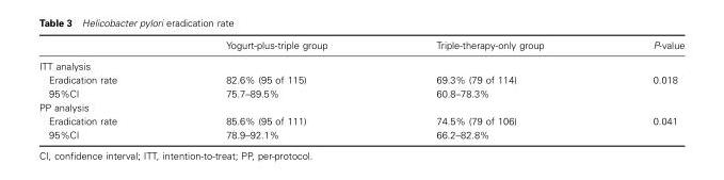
<table><thead><tr><td></td><td>Yogurt-plus-triple group</td><td>Triple-therapy-only group</td><td>P-value</td></tr></thead><tbody><tr><td colspan="4">ITT analysis</td></tr><tr><td>Eradication rate</td><td>82.6% (95 of 115)</td><td>69.3% (79 of 114)</td><td>0.018</td></tr><tr><td>95%CI</td><td>75.7–89.5%</td><td>60.8–78.3%</td><td></td></tr><tr><td colspan="4">PP analysis</td></tr><tr><td>Eradication rate</td><td>85.6% (95 of 111)</td><td>74.5% (79 of 106)</td><td>0.041</td></tr><tr><td>95%CI</td><td>78.9–92.1%</td><td>66.2–82.8%</td><td></td></tr></tbody></table>